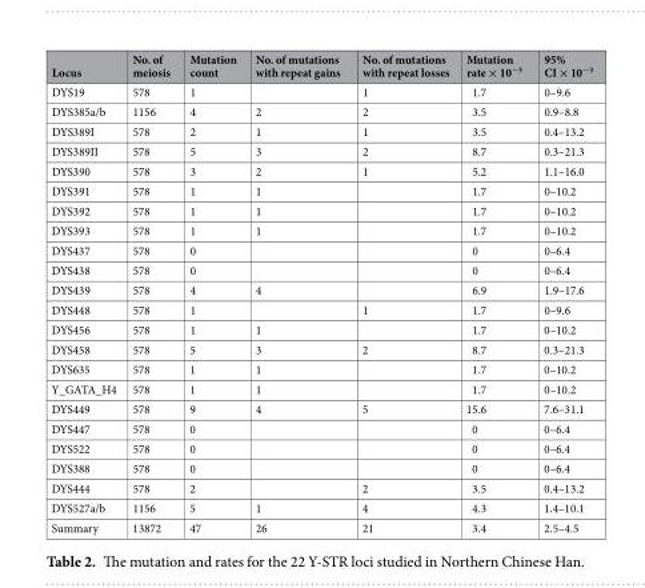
<table><thead><tr><td>Locus</td><td>No. of meiosis</td><td>Mutation count</td><td>No. of mutations with repeat gains</td><td>No. of mutations with repeat losses</td><td>Mutation rate × 10<sup>−3</sup></td><td>95% CI × 10<sup>−3</sup></td></tr></thead><tbody><tr><td>DYS19</td><td>578</td><td>1</td><td></td><td>1</td><td>1.7</td><td>0–9.6</td></tr><tr><td>DYS385a/b</td><td>1156</td><td>4</td><td>2</td><td>2</td><td>3.5</td><td>0.9–8.8</td></tr><tr><td>DYS389I</td><td>578</td><td>2</td><td>1</td><td>1</td><td>3.5</td><td>0.4–13.2</td></tr><tr><td>DYS389II</td><td>578</td><td>5</td><td>3</td><td>2</td><td>8.7</td><td>0.3–21.3</td></tr><tr><td>DYS390</td><td>578</td><td>3</td><td>2</td><td>1</td><td>5.2</td><td>1.1–16.0</td></tr><tr><td>DYS391</td><td>578</td><td>1</td><td>1</td><td></td><td>1.7</td><td>0–10.2</td></tr><tr><td>DYS392</td><td>578</td><td>1</td><td>1</td><td></td><td>1.7</td><td>0–10.2</td></tr><tr><td>DYS393</td><td>578</td><td>1</td><td>1</td><td></td><td>1.7</td><td>0–10.2</td></tr><tr><td>DYS437</td><td>578</td><td>0</td><td></td><td></td><td>0</td><td>0–6.4</td></tr><tr><td>DYS438</td><td>578</td><td>0</td><td></td><td></td><td>0</td><td>0–6.4</td></tr><tr><td>DYS439</td><td>578</td><td>4</td><td>4</td><td></td><td>6.9</td><td>1.9–17.6</td></tr><tr><td>DYS448</td><td>578</td><td>1</td><td></td><td>1</td><td>1.7</td><td>0–9.6</td></tr><tr><td>DYS456</td><td>578</td><td>1</td><td>1</td><td></td><td>1.7</td><td>0–10.2</td></tr><tr><td>DYS458</td><td>578</td><td>5</td><td>3</td><td>2</td><td>8.7</td><td>0.3–21.3</td></tr><tr><td>DYS635</td><td>578</td><td>1</td><td>1</td><td></td><td>1.7</td><td>0–10.2</td></tr><tr><td>Y_GATA_H4</td><td>578</td><td>1</td><td>1</td><td></td><td>1.7</td><td>0–10.2</td></tr><tr><td>DYS449</td><td>578</td><td>9</td><td>4</td><td>5</td><td>15.6</td><td>7.6–31.1</td></tr><tr><td>DYS447</td><td>578</td><td>0</td><td></td><td></td><td>0</td><td>0–6.4</td></tr><tr><td>DYS522</td><td>578</td><td>0</td><td></td><td></td><td>0</td><td>0–6.4</td></tr><tr><td>DYS388</td><td>578</td><td>0</td><td></td><td></td><td>0</td><td>0–6.4</td></tr><tr><td>DYS444</td><td>578</td><td>2</td><td></td><td>2</td><td>3.5</td><td>0.4–13.2</td></tr><tr><td>DYS527a/b</td><td>1156</td><td>5</td><td>1</td><td>4</td><td>4.3</td><td>1.4–10.1</td></tr><tr><td>Summary</td><td>13872</td><td>47</td><td>26</td><td>21</td><td>3.4</td><td>2.5–4.5</td></tr></tbody></table>